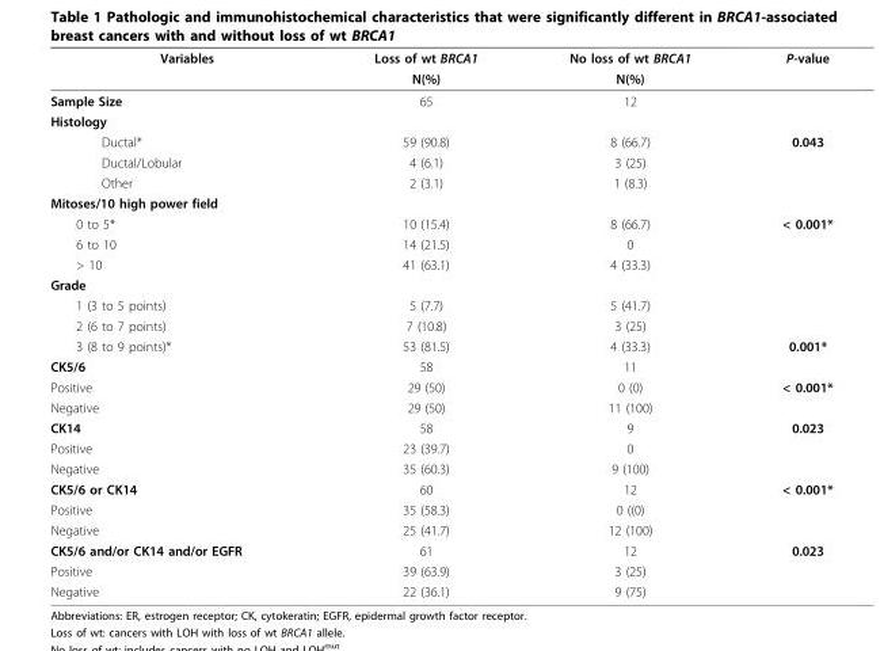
<table><thead><tr><td rowspan="2">Variables</td><td rowspan="2">Loss of wt BRCA1 N(%)</td><td rowspan="2">No loss of wt BRCA1 N(%)</td><td rowspan="2">P-value</td></tr><tr></tr></thead><tbody><tr><td>Sample Size</td><td>65</td><td>12</td><td></td></tr><tr><td colspan="4">Histology</td></tr><tr><td>Ductal*</td><td>59 (90.8)</td><td>8 (66.7)</td><td>0.043</td></tr><tr><td>Ductal/Lobular</td><td>4 (6.1)</td><td>3 (25)</td><td></td></tr><tr><td>Other</td><td>2 (3.1)</td><td>1 (8.3)</td><td></td></tr><tr><td colspan="4">Mitoses/10 high power field</td></tr><tr><td>0 to 5*</td><td>10 (15.4)</td><td>8 (66.7)</td><td>&lt; 0.001*</td></tr><tr><td>6 to 10</td><td>14 (21.5)</td><td>0</td><td></td></tr><tr><td>&gt; 10</td><td>41 (63.1)</td><td>4 (33.3)</td><td></td></tr><tr><td colspan="4">Grade</td></tr><tr><td>1 (3 to 5 points)</td><td>5 (7.7)</td><td>5 (41.7)</td><td></td></tr><tr><td>2 (6 to 7 points)</td><td>7 (10.8)</td><td>3 (25)</td><td></td></tr><tr><td>3 (8 to 9 points)*</td><td>53 (81.5)</td><td>4 (33.3)</td><td>0.001*</td></tr><tr><td>CK5/6</td><td>58</td><td>11</td><td></td></tr><tr><td>Positive</td><td>29 (50)</td><td>0 (0)</td><td>&lt; 0.001*</td></tr><tr><td>Negative</td><td>29 (50)</td><td>11 (100)</td><td></td></tr><tr><td>CK14</td><td>58</td><td>9</td><td>0.023</td></tr><tr><td>Positive</td><td>23 (39.7)</td><td>0</td><td></td></tr><tr><td>Negative</td><td>35 (60.3)</td><td>9 (100)</td><td></td></tr><tr><td>CK5/6 or CK14</td><td>60</td><td>12</td><td>&lt; 0.001*</td></tr><tr><td>Positive</td><td>35 (58.3)</td><td>0 ((0)</td><td></td></tr><tr><td>Negative</td><td>25 (41.7)</td><td>12 (100)</td><td></td></tr><tr><td>CK5/6 and/or CK14 and/or EGFR</td><td>61</td><td>12</td><td>0.023</td></tr><tr><td>Positive</td><td>39 (63.9)</td><td>3 (25)</td><td></td></tr><tr><td>Negative</td><td>22 (36.1)</td><td>9 (75)</td><td></td></tr></tbody></table>